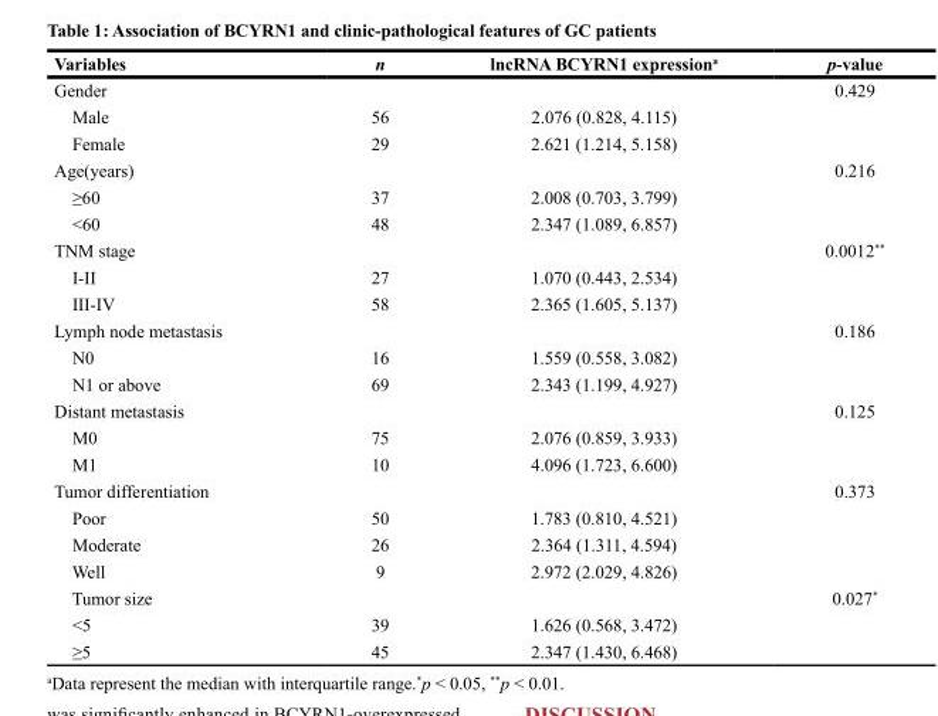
<table><thead><tr><td>Variables</td><td>n</td><td>lncRNA BCYRN1 expression<sup>a</sup></td><td>p-value</td></tr></thead><tbody><tr><td>Gender</td><td></td><td></td><td>0.429</td></tr><tr><td>Male</td><td>56</td><td>2.076 (0.828, 4.115)</td><td></td></tr><tr><td>Female</td><td>29</td><td>2.621 (1.214, 5.158)</td><td></td></tr><tr><td>Age(years)</td><td></td><td></td><td>0.216</td></tr><tr><td>≥60</td><td>37</td><td>2.008 (0.703, 3.799)</td><td></td></tr><tr><td>&lt;60</td><td>48</td><td>2.347 (1.089, 6.857)</td><td></td></tr><tr><td>TNM stage</td><td></td><td></td><td>0.0012**</td></tr><tr><td>I-II</td><td>27</td><td>1.070 (0.443, 2.534)</td><td></td></tr><tr><td>III-IV</td><td>58</td><td>2.365 (1.605, 5.137)</td><td></td></tr><tr><td>Lymph node metastasis</td><td></td><td></td><td>0.186</td></tr><tr><td>N0</td><td>16</td><td>1.559 (0.558, 3.082)</td><td></td></tr><tr><td>N1 or above</td><td>69</td><td>2.343 (1.199, 4.927)</td><td></td></tr><tr><td>Distant metastasis</td><td></td><td></td><td>0.125</td></tr><tr><td>M0</td><td>75</td><td>2.076 (0.859, 3.933)</td><td></td></tr><tr><td>M1</td><td>10</td><td>4.096 (1.723, 6.600)</td><td></td></tr><tr><td>Tumor differentiation</td><td></td><td></td><td>0.373</td></tr><tr><td>Poor</td><td>50</td><td>1.783 (0.810, 4.521)</td><td></td></tr><tr><td>Moderate</td><td>26</td><td>2.364 (1.311, 4.594)</td><td></td></tr><tr><td>Well</td><td>9</td><td>2.972 (2.029, 4.826)</td><td></td></tr><tr><td>Tumor size</td><td></td><td></td><td>0.027*</td></tr><tr><td>&lt;5</td><td>39</td><td>1.626 (0.568, 3.472)</td><td></td></tr><tr><td>≥5</td><td>45</td><td>2.347 (1.430, 6.468)</td><td></td></tr></tbody></table>